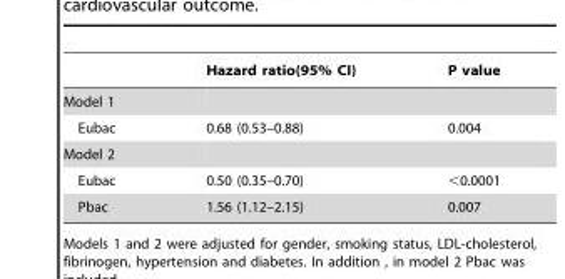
<table><thead><tr><td></td><td>Hazard ratio(95% CI)</td><td>P value</td></tr></thead><tbody><tr><td colspan="3">Model 1</td></tr><tr><td>Eubac</td><td>0.68 (0.53–0.88)</td><td>0.004</td></tr><tr><td colspan="3">Model 2</td></tr><tr><td>Eubac</td><td>0.50 (0.35–0.70)</td><td>&lt;0.0001</td></tr><tr><td>Pbac</td><td>1.56 (1.12–2.15)</td><td>0.007</td></tr></tbody></table>